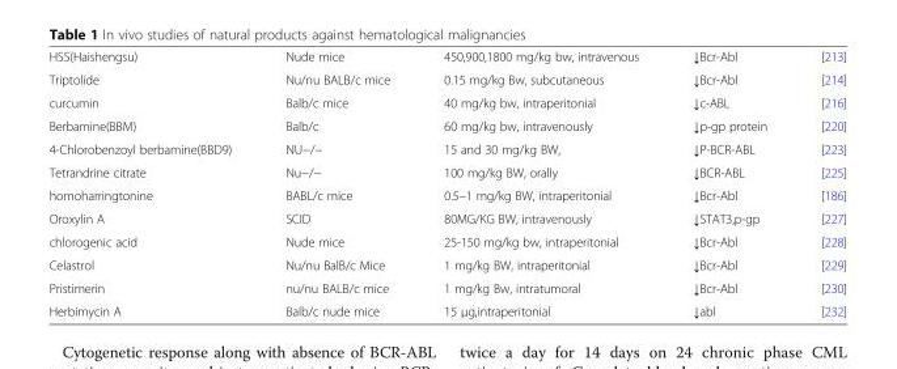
<table><tbody><tr><td>HSS(Haishengsu)</td><td>Nude mice</td><td>450,900,1800 mg/kg bw, intravenous</td><td>↓Bcr-Abl</td><td>[213]</td></tr><tr><td>Triptolide</td><td>Nu/nu BALB/c mice</td><td>0.15 mg/kg Bw, subcutaneous</td><td>↓Bcr-Abl</td><td>[214]</td></tr><tr><td>curcumin</td><td>Balb/c mice</td><td>40 mg/kg bw, intraperitonial</td><td>↓c-ABL</td><td>[216]</td></tr><tr><td>Berbamine(BBM)</td><td>Balb/c</td><td>60 mg/kg bw, intravenously</td><td>↓p-gp protein</td><td>[220]</td></tr><tr><td>4-Chlorobenzoyl berbamine(BBD9)</td><td>NU−/−</td><td>15 and 30 mg/kg BW,</td><td>↓P-BCR-ABL</td><td>[223]</td></tr><tr><td>Tetrandrine citrate</td><td>Nu−/−</td><td>100 mg/kg BW, orally</td><td>↓BCR-ABL</td><td>[225]</td></tr><tr><td>homoharringtonine</td><td>BABL/c mice</td><td>0.5–1 mg/kg BW, intraperitonial</td><td>↓Bcr-Abl</td><td>[186]</td></tr><tr><td>Oroxylin A</td><td>SCID</td><td>80MG/KG BW, intravenously</td><td>↓STAT3,p-gp</td><td>[227]</td></tr><tr><td>chlorogenic acid</td><td>Nude mice</td><td>25-150 mg/kg bw, intraperitonial</td><td>↓Bcr-Abl</td><td>[228]</td></tr><tr><td>Celastrol</td><td>Nu/nu BalB/c Mice</td><td>1 mg/kg BW, intraperitonial</td><td>↓Bcr-Abl</td><td>[229]</td></tr><tr><td>Pristimerin</td><td>nu/nu BALB/c mice</td><td>1 mg/kg Bw, intratumoral</td><td>↓Bcr-Abl</td><td>[230]</td></tr><tr><td>Herbimycin A</td><td>Balb/c nude mice</td><td>15 μg,intraperitonial</td><td>↓abl</td><td>[232]</td></tr></tbody></table>